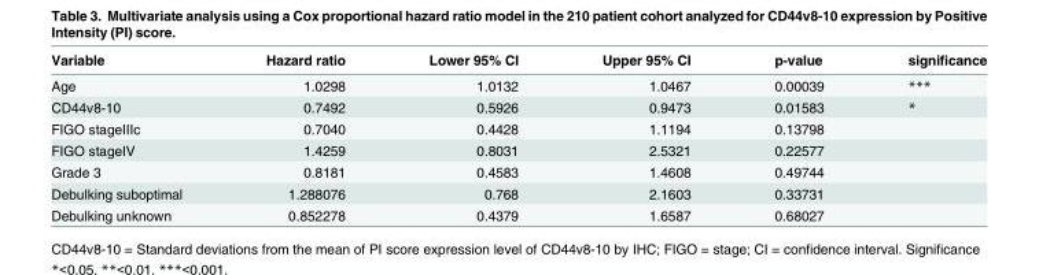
<table><thead><tr><td>Variable</td><td>Hazard ratio</td><td>Lower 95% CI</td><td>Upper 95% CI</td><td>p-value</td><td>significance</td></tr></thead><tbody><tr><td>Age</td><td>1.0298</td><td>1.0132</td><td>1.0467</td><td>0.00039</td><td>***</td></tr><tr><td>CD44v8-10</td><td>0.7492</td><td>0.5926</td><td>0.9473</td><td>0.01583</td><td>*</td></tr><tr><td>FIGO stageIIIc</td><td>0.7040</td><td>0.4428</td><td>1.1194</td><td>0.13798</td><td></td></tr><tr><td>FIGO stageIV</td><td>1.4259</td><td>0.8031</td><td>2.5321</td><td>0.22577</td><td></td></tr><tr><td>Grade 3</td><td>0.8181</td><td>0.4583</td><td>1.4608</td><td>0.49744</td><td></td></tr><tr><td>Debulking suboptimal</td><td>1.288076</td><td>0.768</td><td>2.1603</td><td>0.33731</td><td></td></tr><tr><td>Debulking unknown</td><td>0.852278</td><td>0.4379</td><td>1.6587</td><td>0.68027</td><td></td></tr></tbody></table>